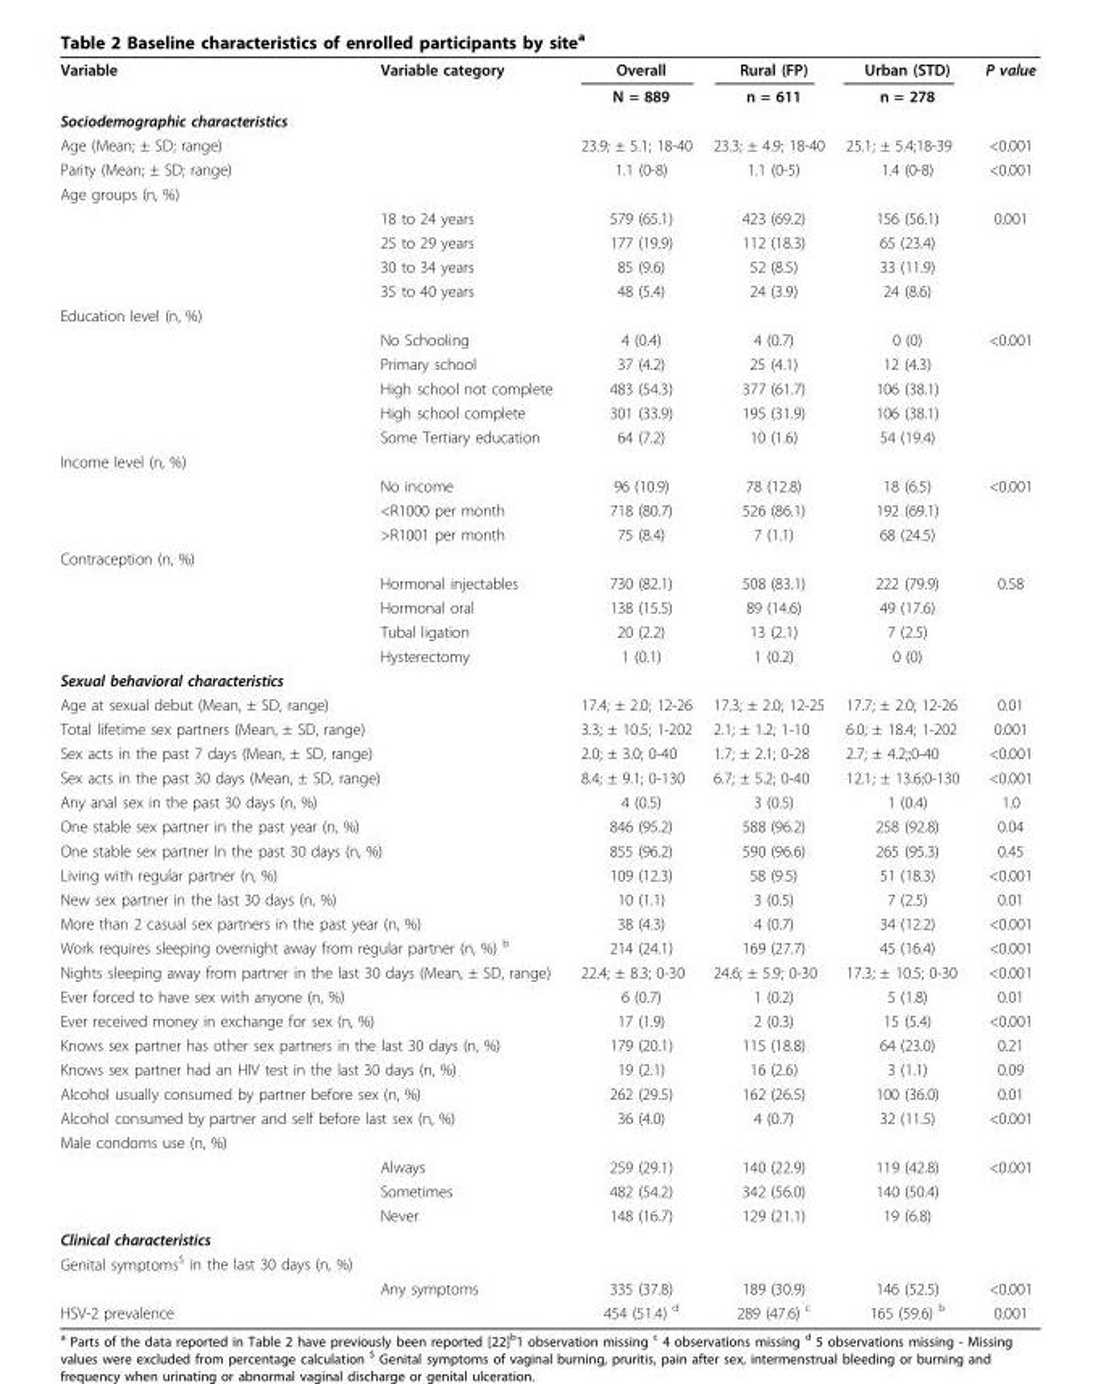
<table><tbody><tr><td rowspan="2">Variable</td><td>Variable category</td><td>Overall</td><td>Rural (FP)</td><td>Urban (STD)</td><td>P value</td></tr><tr><td></td><td>N = 889</td><td>n = 611</td><td>n = 278</td><td></td></tr><tr><td colspan="6">Sociodemographic characteristics</td></tr><tr><td colspan="2">Age (Mean; ± SD; range)</td><td>23.9; ± 5.1; 18-40</td><td>23.3; ± 4.9; 18-40</td><td>25.1; ± 5.4;18-39</td><td>&lt;0.001</td></tr><tr><td colspan="2">Parity (Mean; ± SD; range)</td><td>1.1 (0-8)</td><td>1.1 (0-5)</td><td>1.4 (0-8)</td><td>&lt;0.001</td></tr><tr><td colspan="6">Age groups (n, %)</td></tr><tr><td></td><td>18 to 24 years</td><td>579 (65.1)</td><td>423 (69.2)</td><td>156 (56.1)</td><td>0.001</td></tr><tr><td></td><td>25 to 29 years</td><td>177 (19.9)</td><td>112 (18.3)</td><td>65 (23.4)</td><td></td></tr><tr><td></td><td>30 to 34 years</td><td>85 (9.6)</td><td>52 (8.5)</td><td>33 (11.9)</td><td></td></tr><tr><td></td><td>35 to 40 years</td><td>48 (5.4)</td><td>24 (3.9)</td><td>24 (8.6)</td><td></td></tr><tr><td colspan="6">Education level (n, %)</td></tr><tr><td></td><td>No Schooling</td><td>4 (0.4)</td><td>4 (0.7)</td><td>0 (0)</td><td>&lt;0.001</td></tr><tr><td></td><td>Primary school</td><td>37 (4.2)</td><td>25 (4.1)</td><td>12 (4.3)</td><td></td></tr><tr><td></td><td>High school not complete</td><td>483 (54.3)</td><td>377 (61.7)</td><td>106 (38.1)</td><td></td></tr><tr><td></td><td>High school complete</td><td>301 (33.9)</td><td>195 (31.9)</td><td>106 (38.1)</td><td></td></tr><tr><td></td><td>Some Tertiary education</td><td>64 (7.2)</td><td>10 (1.6)</td><td>54 (19.4)</td><td></td></tr><tr><td colspan="6">Income level (n, %)</td></tr><tr><td></td><td>No income</td><td>96 (10.9)</td><td>78 (12.8)</td><td>18 (6.5)</td><td>&lt;0.001</td></tr><tr><td></td><td>&lt;R1000 per month</td><td>718 (80.7)</td><td>526 (86.1)</td><td>192 (69.1)</td><td></td></tr><tr><td></td><td>&gt;R1001 per month</td><td>75 (8.4)</td><td>7 (1.1)</td><td>68 (24.5)</td><td></td></tr><tr><td colspan="6">Contraception (n, %)</td></tr><tr><td></td><td>Hormonal injectables</td><td>730 (82.1)</td><td>508 (83.1)</td><td>222 (79.9)</td><td>0.58</td></tr><tr><td></td><td>Hormonal oral</td><td>138 (15.5)</td><td>89 (14.6)</td><td>49 (17.6)</td><td></td></tr><tr><td></td><td>Tubal ligation</td><td>20 (2.2)</td><td>13 (2.1)</td><td>7 (2.5)</td><td></td></tr><tr><td></td><td>Hysterectomy</td><td>1 (0.1)</td><td>1 (0.2)</td><td>0 (0)</td><td></td></tr><tr><td colspan="6">Sexual behavioral characteristics</td></tr><tr><td colspan="2">Age at sexual debut (Mean, ± SD, range)</td><td>17.4; ± 2.0; 12-26</td><td>17.3; ± 2.0; 12-25</td><td>17.7; ± 2.0; 12-26</td><td>0.01</td></tr><tr><td colspan="2">Total lifetime sex partners (Mean, ± SD, range)</td><td>3.3; ± 10.5; 1-202</td><td>2.1; ± 1.2; 1-10</td><td>6.0; ± 18.4; 1-202</td><td>0.001</td></tr><tr><td colspan="2">Sex acts in the past 7 days (Mean, ± SD, range)</td><td>2.0; ± 3.0; 0-40</td><td>1.7; ± 2.1; 0-28</td><td>2.7; ± 4.2;;0-40</td><td>&lt;0.001</td></tr><tr><td colspan="2">Sex acts in the past 30 days (Mean, ± SD, range)</td><td>8.4; ± 9.1; 0-130</td><td>6.7; ± 5.2; 0-40</td><td>12.1; ± 13.6;0-130</td><td>&lt;0.001</td></tr><tr><td colspan="2">Any anal sex in the past 30 days (n, %)</td><td>4 (0.5)</td><td>3 (0.5)</td><td>1 (0.4)</td><td>1.0</td></tr><tr><td colspan="2">One stable sex partner in the past year (n, %)</td><td>846 (95.2)</td><td>588 (96.2)</td><td>258 (92.8)</td><td>0.04</td></tr><tr><td colspan="2">One stable sex partner In the past 30 days (n, %)</td><td>855 (96.2)</td><td>590 (96.6)</td><td>265 (95.3)</td><td>0.45</td></tr><tr><td colspan="2">Living with regular partner (n, %)</td><td>109 (12.3)</td><td>58 (9.5)</td><td>51 (18.3)</td><td>&lt;0.001</td></tr><tr><td colspan="2">New sex partner in the last 30 days (n, %)</td><td>10 (1.1)</td><td>3 (0.5)</td><td>7 (2.5)</td><td>0.01</td></tr><tr><td colspan="2">More than 2 casual sex partners in the past year (n, %)</td><td>38 (4.3)</td><td>4 (0.7)</td><td>34 (12.2)</td><td>&lt;0.001</td></tr><tr><td colspan="2">Work requires sleeping overnight away from regular partner (n, %) <sup>b</sup></td><td>214 (24.1)</td><td>169 (27.7)</td><td>45 (16.4)</td><td>&lt;0.001</td></tr><tr><td colspan="2">Nights sleeping away from partner in the last 30 days (Mean, ± SD, range)</td><td>22.4; ± 8.3; 0-30</td><td>24.6; ± 5.9; 0-30</td><td>17.3; ± 10.5; 0-30</td><td>&lt;0.001</td></tr><tr><td colspan="2">Ever forced to have sex with anyone (n, %)</td><td>6 (0.7)</td><td>1 (0.2)</td><td>5 (1.8)</td><td>0.01</td></tr><tr><td colspan="2">Ever received money in exchange for sex (n, %)</td><td>17 (1.9)</td><td>2 (0.3)</td><td>15 (5.4)</td><td>&lt;0.001</td></tr><tr><td colspan="2">Knows sex partner has other sex partners in the last 30 days (n, %)</td><td>179 (20.1)</td><td>115 (18.8)</td><td>64 (23.0)</td><td>0.21</td></tr><tr><td colspan="2">Knows sex partner had an HIV test in the last 30 days (n, %)</td><td>19 (2.1)</td><td>16 (2.6)</td><td>3 (1.1)</td><td>0.09</td></tr><tr><td colspan="2">Alcohol usually consumed by partner before sex (n, %)</td><td>262 (29.5)</td><td>162 (26.5)</td><td>100 (36.0)</td><td>0.01</td></tr><tr><td colspan="2">Alcohol consumed by partner and self before last sex (n, %)</td><td>36 (4.0)</td><td>4 (0.7)</td><td>32 (11.5)</td><td>&lt;0.001</td></tr><tr><td colspan="6">Male condoms use (n, %)</td></tr><tr><td></td><td>Always</td><td>259 (29.1)</td><td>140 (22.9)</td><td>119 (42.8)</td><td>&lt;0.001</td></tr><tr><td></td><td>Sometimes</td><td>482 (54.2)</td><td>342 (56.0)</td><td>140 (50.4)</td><td></td></tr><tr><td></td><td>Never</td><td>148 (16.7)</td><td>129 (21.1)</td><td>19 (6.8)</td><td></td></tr><tr><td colspan="6">Clinical characteristics</td></tr><tr><td colspan="6">Genital symptoms<sup>$</sup> in the last 30 days (n, %)</td></tr><tr><td></td><td>Any symptoms</td><td>335 (37.8)</td><td>189 (30.9)</td><td>146 (52.5)</td><td>&lt;0.001</td></tr><tr><td colspan="2">HSV-2 prevalence</td><td>454 (51.4) <sup>d</sup></td><td>289 (47.6) <sup>c</sup></td><td>165 (59.6) <sup>b</sup></td><td>0.001</td></tr></tbody></table>